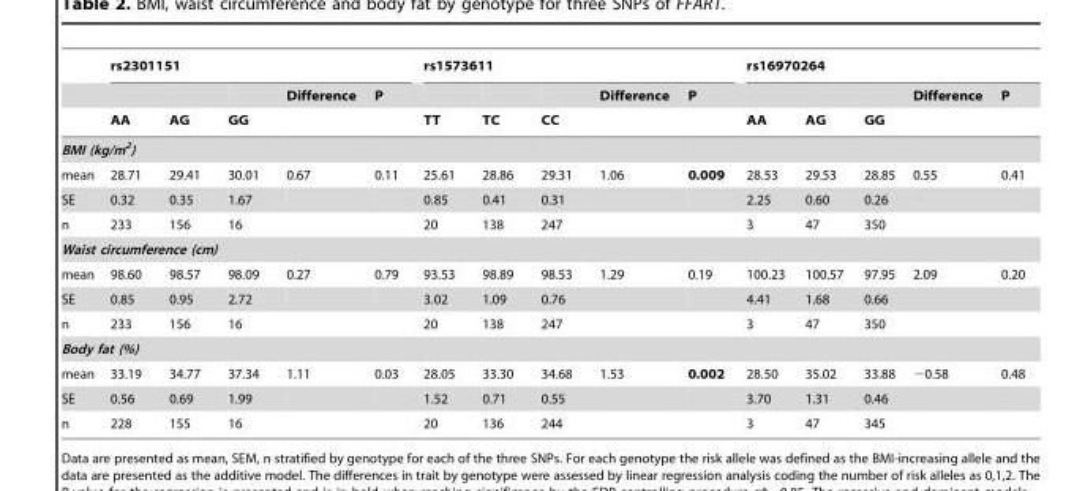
<table><thead><tr><td rowspan="3"></td><td colspan="5">rs2301151</td><td colspan="5">rs1573611</td><td colspan="5">rs16970264</td></tr><tr><td rowspan="2">AA</td><td rowspan="2">AG</td><td rowspan="2">GG</td><td rowspan="2">Difference</td><td rowspan="2">P</td><td rowspan="2">TT</td><td rowspan="2">TC</td><td rowspan="2">CC</td><td rowspan="2">Difference</td><td rowspan="2">P</td><td rowspan="2">AA</td><td rowspan="2">AG</td><td rowspan="2">GG</td><td rowspan="2">Difference</td><td rowspan="2">P</td></tr><tr></tr></thead><tbody><tr><td colspan="16">BMI (kg/m<sup>2</sup>)</td></tr><tr><td>mean</td><td>28.71</td><td>29.41</td><td>30.01</td><td>0.67</td><td>0.11</td><td>25.61</td><td>28.86</td><td>29.31</td><td>1.06</td><td>0.009</td><td>28.53</td><td>29.53</td><td>28.85</td><td>0.55</td><td>0.41</td></tr><tr><td>SE</td><td>0.32</td><td>0.35</td><td>1.67</td><td></td><td></td><td>0.85</td><td>0.41</td><td>0.31</td><td></td><td></td><td>2.25</td><td>0.60</td><td>0.26</td><td></td><td></td></tr><tr><td>n</td><td>233</td><td>156</td><td>16</td><td></td><td></td><td>20</td><td>138</td><td>247</td><td></td><td></td><td>3</td><td>47</td><td>350</td><td></td><td></td></tr><tr><td colspan="16">Waist circumference (cm)</td></tr><tr><td>mean</td><td>98.60</td><td>98.57</td><td>98.09</td><td>0.27</td><td>0.79</td><td>93.53</td><td>98.89</td><td>98.53</td><td>1.29</td><td>0.19</td><td>100.23</td><td>100.57</td><td>97.95</td><td>2.09</td><td>0.20</td></tr><tr><td>SE</td><td>0.85</td><td>0.95</td><td>2.72</td><td></td><td></td><td>3.02</td><td>1.09</td><td>0.76</td><td></td><td></td><td>4.41</td><td>1.68</td><td>0.66</td><td></td><td></td></tr><tr><td>n</td><td>233</td><td>156</td><td>16</td><td></td><td></td><td>20</td><td>138</td><td>247</td><td></td><td></td><td>3</td><td>47</td><td>350</td><td></td><td></td></tr><tr><td colspan="16">Body fat (%)</td></tr><tr><td>mean</td><td>33.19</td><td>34.77</td><td>37.34</td><td>1.11</td><td>0.03</td><td>28.05</td><td>33.30</td><td>34.68</td><td>1.53</td><td>0.002</td><td>28.50</td><td>35.02</td><td>33.88</td><td>−0.58</td><td>0.48</td></tr><tr><td>SE</td><td>0.56</td><td>0.69</td><td>1.99</td><td></td><td></td><td>1.52</td><td>0.71</td><td>0.55</td><td></td><td></td><td>3.70</td><td>1.31</td><td>0.46</td><td></td><td></td></tr><tr><td>n</td><td>228</td><td>155</td><td>16</td><td></td><td></td><td>20</td><td>136</td><td>244</td><td></td><td></td><td>3</td><td>47</td><td>345</td><td></td><td></td></tr></tbody></table>